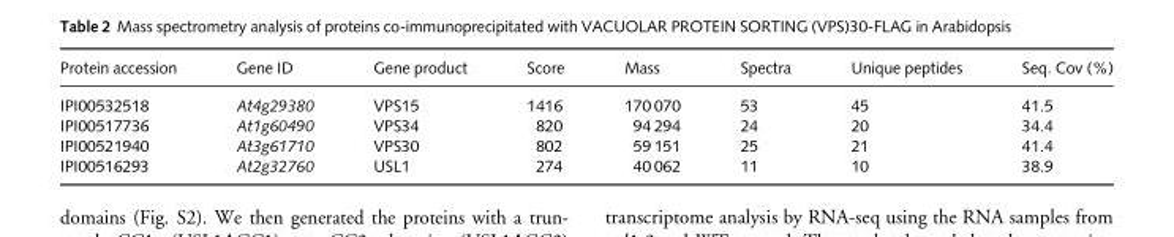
<table><thead><tr><td>Protein accession</td><td>Gene ID</td><td>Gene product</td><td>Score</td><td>Mass</td><td>Spectra</td><td>Unique peptides</td><td>Seq. Cov (%)</td></tr></thead><tbody><tr><td>IPI00532518</td><td>At4g29380</td><td>VPS15</td><td>1416</td><td>170 070</td><td>53</td><td>45</td><td>41.5</td></tr><tr><td>IPI00517736</td><td>At1g60490</td><td>VPS34</td><td>820</td><td>94 294</td><td>24</td><td>20</td><td>34.4</td></tr><tr><td>IPI00521940</td><td>At3g61710</td><td>VPS30</td><td>802</td><td>59 151</td><td>25</td><td>21</td><td>41.4</td></tr><tr><td>IPI00516293</td><td>At2g32760</td><td>USL1</td><td>274</td><td>40 062</td><td>11</td><td>10</td><td>38.9</td></tr></tbody></table>